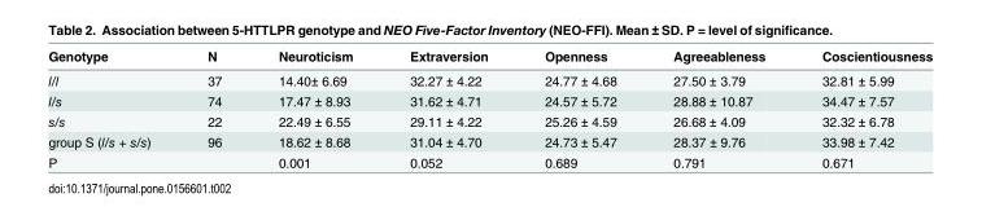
<table><thead><tr><td>Genotype</td><td>N</td><td>Neuroticism</td><td>Extraversion</td><td>Openness</td><td>Agreeableness</td><td>Coscientiousness</td></tr></thead><tbody><tr><td>l/l</td><td>37</td><td>14.40± 6.69</td><td>32.27 ± 4.22</td><td>24.77 ± 4.68</td><td>27.50 ± 3.79</td><td>32.81 ± 5.99</td></tr><tr><td>l/s</td><td>74</td><td>17.47 ± 8.93</td><td>31.62 ± 4.71</td><td>24.57 ± 5.72</td><td>28.88 ± 10.87</td><td>34.47 ± 7.57</td></tr><tr><td>s/s</td><td>22</td><td>22.49 ± 6.55</td><td>29.11 ± 4.22</td><td>25.26 ± 4.59</td><td>26.68 ± 4.09</td><td>32.32 ± 6.78</td></tr><tr><td>group S (l/s + s/s)</td><td>96</td><td>18.62 ± 8.68</td><td>31.04 ± 4.70</td><td>24.73 ± 5.47</td><td>28.37 ± 9.76</td><td>33.98 ± 7.42</td></tr><tr><td>P</td><td></td><td>0.001</td><td>0.052</td><td>0.689</td><td>0.791</td><td>0.671</td></tr></tbody></table>